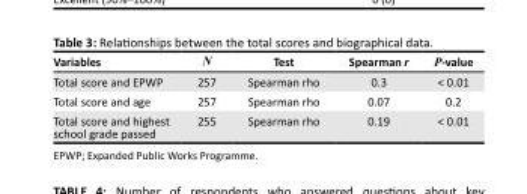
<table><thead><tr><td>Variables</td><td>N</td><td>Test</td><td>Spearman r</td><td>P-value</td></tr></thead><tbody><tr><td>Total score and EPWP</td><td>257</td><td>Spearman rho</td><td>0.3</td><td>&lt; 0.01</td></tr><tr><td>Total score and age</td><td>257</td><td>Spearman rho</td><td>0.07</td><td>0.2</td></tr><tr><td>Total score and highest school grade passed</td><td>255</td><td>Spearman rho</td><td>0.19</td><td>&lt; 0.01</td></tr></tbody></table>